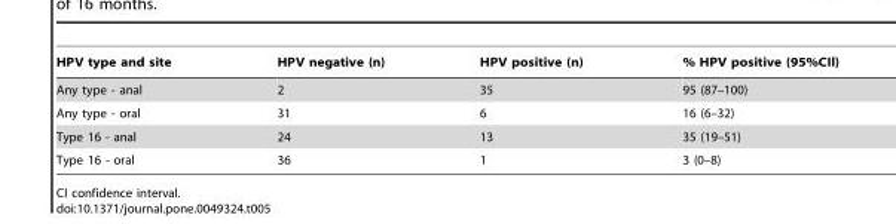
<table><thead><tr><td>HPV type and site</td><td>HPV negative (n)</td><td>HPV positive (n)</td><td>% HPV positive (95%CIl)</td></tr></thead><tbody><tr><td>Any type - anal</td><td>2</td><td>35</td><td>95 (87–100)</td></tr><tr><td>Any type - oral</td><td>31</td><td>6</td><td>16 (6–32)</td></tr><tr><td>Type 16 - anal</td><td>24</td><td>13</td><td>35 (19–51)</td></tr><tr><td>Type 16 - oral</td><td>36</td><td>1</td><td>3 (0–8)</td></tr></tbody></table>